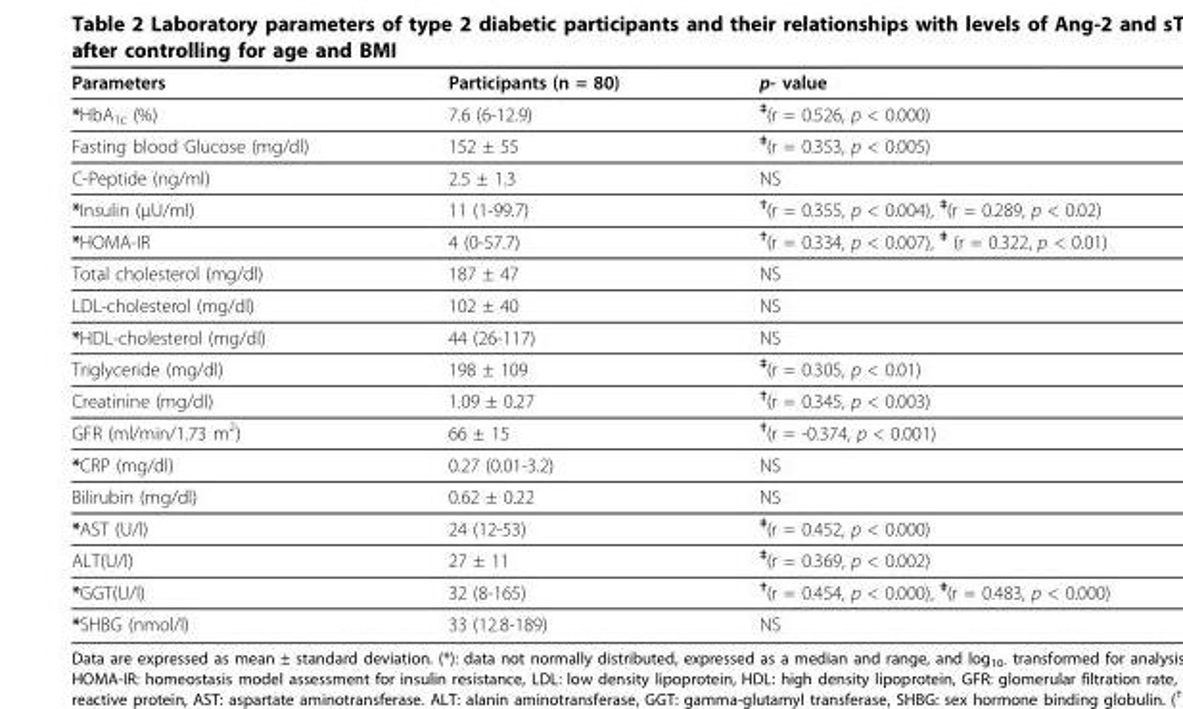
<table><thead><tr><td>Parameters</td><td>Participants (n = 80)</td><td>p- value</td></tr></thead><tbody><tr><td>*HbA<sub>1c</sub> (%)</td><td>7.6 (6-12.9)</td><td><sup>‡</sup>(r = 0.526, p &lt; 0.000)</td></tr><tr><td>Fasting blood Glucose (mg/dl)</td><td>152 ± 55</td><td><sup>‡</sup>(r = 0.353, p &lt; 0.005)</td></tr><tr><td>C-Peptide (ng/ml)</td><td>2.5 ± 1.3</td><td>NS</td></tr><tr><td>*Insulin (μU/ml)</td><td>11 (1-99.7)</td><td><sup>†</sup>(r = 0.355, p &lt; 0.004), <sup>‡</sup>(r = 0.289, p &lt; 0.02)</td></tr><tr><td>*HOMA-IR</td><td>4 (0-57.7)</td><td><sup>†</sup>(r = 0.334, p &lt; 0.007), <sup>‡</sup> (r = 0.322, p &lt; 0.01)</td></tr><tr><td>Total cholesterol (mg/dl)</td><td>187 ± 47</td><td>NS</td></tr><tr><td>LDL-cholesterol (mg/dl)</td><td>102 ± 40</td><td>NS</td></tr><tr><td>*HDL-cholesterol (mg/dl)</td><td>44 (26-117)</td><td>NS</td></tr><tr><td>Triglyceride (mg/dl)</td><td>198 ± 109</td><td><sup>‡</sup>(r = 0.305, p &lt; 0.01)</td></tr><tr><td>Creatinine (mg/dl)</td><td>1.09 ± 0.27</td><td><sup>†</sup>(r = 0.345, p &lt; 0.003)</td></tr><tr><td>GFR (ml/min/1.73 m<sup>2</sup>)</td><td>66 ± 15</td><td><sup>†</sup>(r = -0.374, p &lt; 0.001)</td></tr><tr><td>*CRP (mg/dl)</td><td>0.27 (0.01-3.2)</td><td>NS</td></tr><tr><td>Bilirubin (mg/dl)</td><td>0.62 ± 0.22</td><td>NS</td></tr><tr><td>*AST (U/l)</td><td>24 (12-53)</td><td><sup>‡</sup>(r = 0.452, p &lt; 0.000)</td></tr><tr><td>ALT(U/l)</td><td>27 ± 11</td><td><sup>‡</sup>(r = 0.369, p &lt; 0.002)</td></tr><tr><td>*GGT(U/l)</td><td>32 (8-165)</td><td><sup>†</sup>(r = 0.454, p &lt; 0.000), <sup>‡</sup>(r = 0.483, p &lt; 0.000)</td></tr><tr><td>*SHBG (nmol/l)</td><td>33 (12.8-189)</td><td>NS</td></tr></tbody></table>